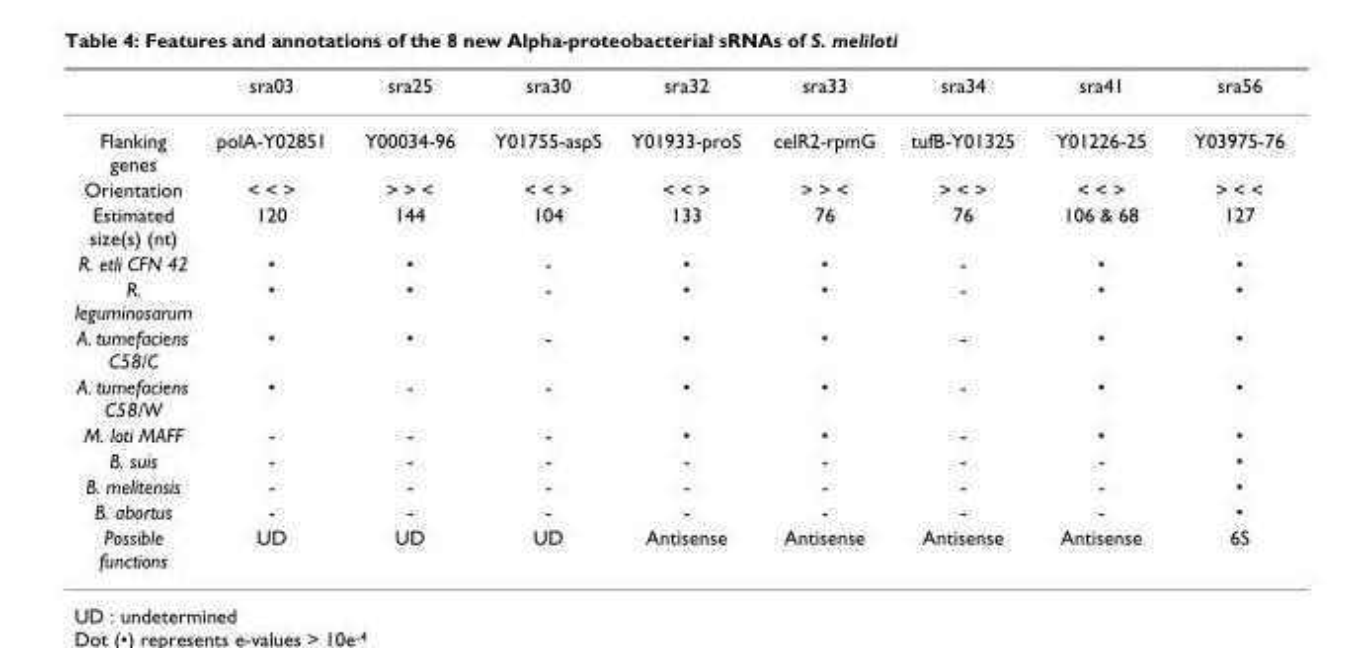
<table><thead><tr><td></td><td>sra03</td><td>sra25</td><td>sra30</td><td>sra32</td><td>sra33</td><td>sra34</td><td>sra41</td><td>sra56</td></tr></thead><tbody><tr><td>Flanking genes</td><td>polA-Y02851</td><td>Y00034-96</td><td>Y01755-aspS</td><td>Y01933-proS</td><td>celR2-rpmG</td><td>tufB-Y01325</td><td>Y01226-25</td><td>Y03975-76</td></tr><tr><td>Orientation</td><td>&lt; &lt; &gt;</td><td>&gt; &gt; &lt;</td><td>&lt; &lt; &gt;</td><td>&lt; &lt; &gt;</td><td>&gt; &gt; &lt;</td><td>&gt; &lt; &gt;</td><td>&lt; &lt; &gt;</td><td>&gt; &lt; &lt;</td></tr><tr><td>Estimated size(s) (nt)</td><td>120</td><td>144</td><td>104</td><td>133</td><td>76</td><td>76</td><td>106 &amp; 68</td><td>127</td></tr><tr><td>R. etli CFN 42</td><td>•</td><td>•</td><td>-</td><td>•</td><td>•</td><td>-</td><td>•</td><td>•</td></tr><tr><td>R. leguminosarum</td><td>•</td><td>•</td><td>-</td><td>•</td><td>•</td><td>-</td><td>•</td><td>•</td></tr><tr><td>A. tumefaciens C58/C</td><td>•</td><td>•</td><td>-</td><td>•</td><td>•</td><td>-</td><td>•</td><td>•</td></tr><tr><td>A. tumefaciens C58/W</td><td>•</td><td>-</td><td>-</td><td>•</td><td>•</td><td>-</td><td>•</td><td>•</td></tr><tr><td>M. loti MAFF</td><td>-</td><td>-</td><td>-</td><td>•</td><td>•</td><td>-</td><td>•</td><td>•</td></tr><tr><td>B. suis</td><td>-</td><td>-</td><td>-</td><td>-</td><td>-</td><td>-</td><td>-</td><td>•</td></tr><tr><td>B. melitensis</td><td>-</td><td>-</td><td>-</td><td>-</td><td>-</td><td>-</td><td>-</td><td>•</td></tr><tr><td>B. abortus</td><td>-</td><td>-</td><td>-</td><td>-</td><td>-</td><td>-</td><td>-</td><td>•</td></tr><tr><td>Possible functions</td><td>UD</td><td>UD</td><td>UD</td><td>Antisense</td><td>Antisense</td><td>Antisense</td><td>Antisense</td><td>6S</td></tr></tbody></table>